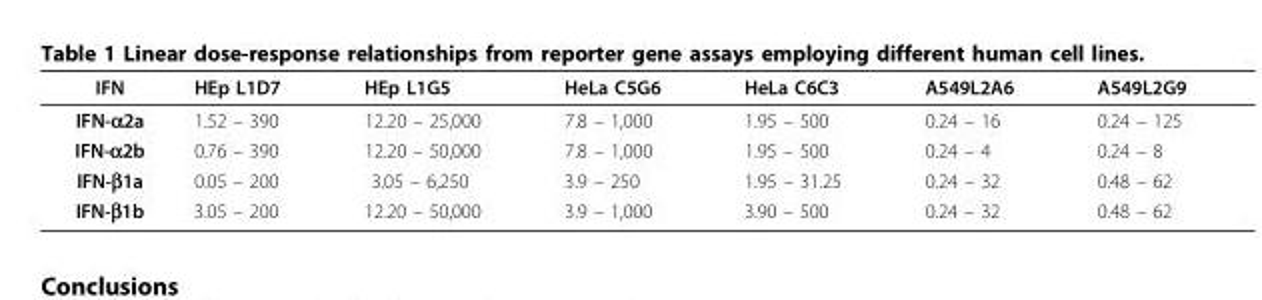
<table><thead><tr><td>IFN</td><td>HEp L1D7</td><td>HEp L1G5</td><td>HeLa C5G6</td><td>HeLa C6C3</td><td>A549L2A6</td><td>A549L2G9</td></tr></thead><tbody><tr><td>IFN-α2a</td><td>1.52 – 390</td><td>12.20 – 25,000</td><td>7.8 – 1,000</td><td>1.95 – 500</td><td>0.24 – 16</td><td>0.24 – 125</td></tr><tr><td>IFN-α2b</td><td>0.76 – 390</td><td>12.20 – 50,000</td><td>7.8 – 1,000</td><td>1.95 – 500</td><td>0.24 – 4</td><td>0.24 – 8</td></tr><tr><td>IFN-β1a</td><td>0.05 – 200</td><td>3.05 – 6,250</td><td>3.9 – 250</td><td>1.95 – 31.25</td><td>0.24 – 32</td><td>0.48 – 62</td></tr><tr><td>IFN-β1b</td><td>3.05 – 200</td><td>12.20 – 50,000</td><td>3.9 – 1,000</td><td>3.90 – 500</td><td>0.24 – 32</td><td>0.48 – 62</td></tr></tbody></table>